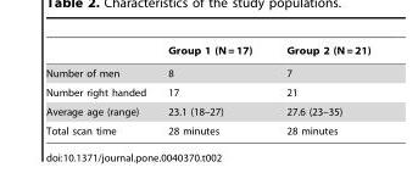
<table><thead><tr><td></td><td>Group 1 (N = 17)</td><td>Group 2 (N = 21)</td></tr></thead><tbody><tr><td>Number of men</td><td>8</td><td>7</td></tr><tr><td>Number right handed</td><td>17</td><td>21</td></tr><tr><td>Average age (range)</td><td>23.1 (18–27)</td><td>27.6 (23–35)</td></tr><tr><td>Total scan time</td><td>28 minutes</td><td>28 minutes</td></tr></tbody></table>